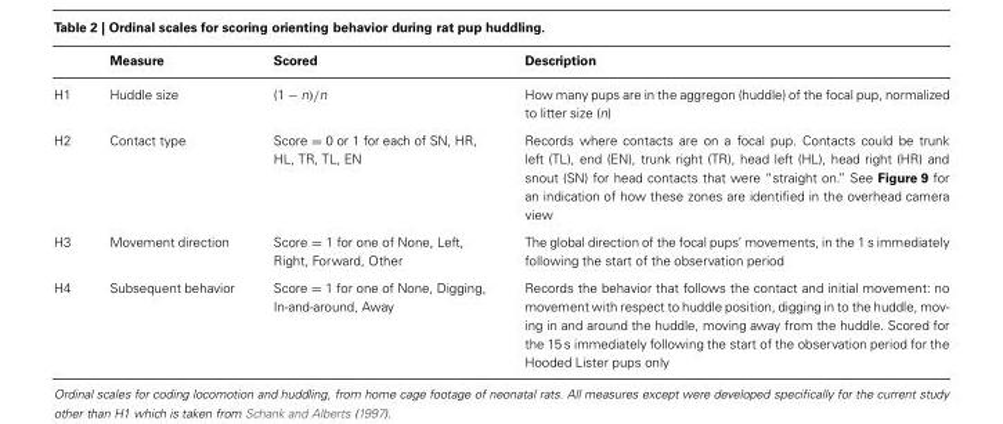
<table><thead><tr><td></td><td>Measure</td><td>Scored</td><td>Description</td></tr></thead><tbody><tr><td>H1</td><td>Huddle size</td><td>(1 − n)/n</td><td>How many pups are in the aggregon (huddle) of the focal pup, normalized to litter size (n)</td></tr><tr><td>H2</td><td>Contact type</td><td>Score = 0 or 1 for each of SN, HR, HL, TR, TL, EN</td><td>Records where contacts are on a focal pup. Contacts could be trunk left (TL), end (EN), trunk right (TR), head left (HL), head right (HR) and snout (SN) for head contacts that were “straight on.” See Figure 9 for an indication of how these zones are identified in the overhead camera view</td></tr><tr><td>H3</td><td>Movement direction</td><td>Score = 1 for one of None, Left, Right, Forward, Other</td><td>The global direction of the focal pups’ movements, in the 1 s immediately following the start of the observation period</td></tr><tr><td>H4</td><td>Subsequent behavior</td><td>Score = 1 for one of None, Digging, In-and-around, Away</td><td>Records the behavior that follows the contact and initial movement: no movement with respect to huddle position, digging in to the huddle, mov- ing in and around the huddle, moving away from the huddle. Scored for the 15 s immediately following the start of the observation period for the Hooded Lister pups only</td></tr></tbody></table>